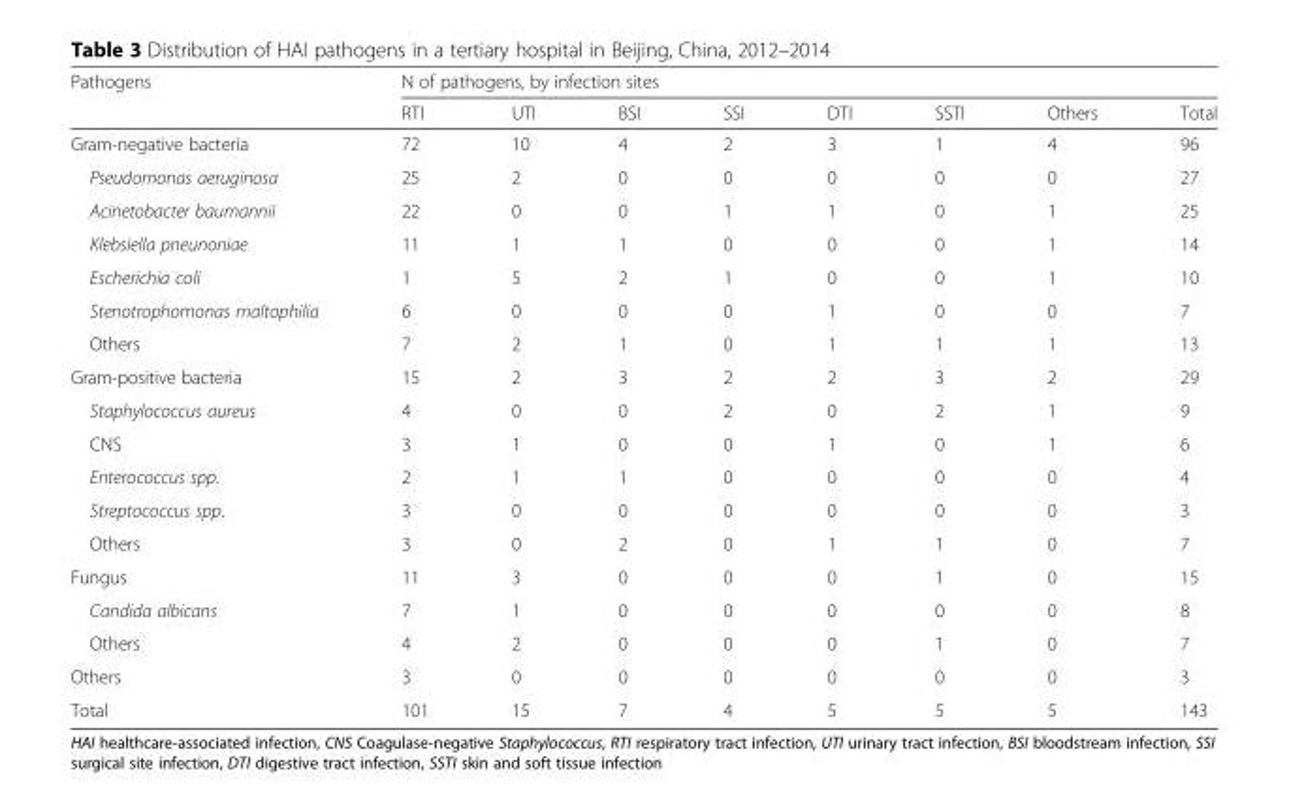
<table><thead><tr><td rowspan="2">Pathogens</td><td colspan="8">N of pathogens, by infection sites</td></tr><tr><td>RTI</td><td>UTI</td><td>BSI</td><td>SSI</td><td>DTI</td><td>SSTI</td><td>Others</td><td>Total</td></tr></thead><tbody><tr><td>Gram-negative bacteria</td><td>72</td><td>10</td><td>4</td><td>2</td><td>3</td><td>1</td><td>4</td><td>96</td></tr><tr><td>Pseudomonas aeruginosa</td><td>25</td><td>2</td><td>0</td><td>0</td><td>0</td><td>0</td><td>0</td><td>27</td></tr><tr><td>Acinetobacter baumannii</td><td>22</td><td>0</td><td>0</td><td>1</td><td>1</td><td>0</td><td>1</td><td>25</td></tr><tr><td>Klebsiella pneunoniae</td><td>11</td><td>1</td><td>1</td><td>0</td><td>0</td><td>0</td><td>1</td><td>14</td></tr><tr><td>Escherichia coli</td><td>1</td><td>5</td><td>2</td><td>1</td><td>0</td><td>0</td><td>1</td><td>10</td></tr><tr><td>Stenotrophomonas maltophilia</td><td>6</td><td>0</td><td>0</td><td>0</td><td>1</td><td>0</td><td>0</td><td>7</td></tr><tr><td>Others</td><td>7</td><td>2</td><td>1</td><td>0</td><td>1</td><td>1</td><td>1</td><td>13</td></tr><tr><td>Gram-positive bacteria</td><td>15</td><td>2</td><td>3</td><td>2</td><td>2</td><td>3</td><td>2</td><td>29</td></tr><tr><td>Staphylococcus aureus</td><td>4</td><td>0</td><td>0</td><td>2</td><td>0</td><td>2</td><td>1</td><td>9</td></tr><tr><td>CNS</td><td>3</td><td>1</td><td>0</td><td>0</td><td>1</td><td>0</td><td>1</td><td>6</td></tr><tr><td>Enterococcus spp.</td><td>2</td><td>1</td><td>1</td><td>0</td><td>0</td><td>0</td><td>0</td><td>4</td></tr><tr><td>Streptococcus spp.</td><td>3</td><td>0</td><td>0</td><td>0</td><td>0</td><td>0</td><td>0</td><td>3</td></tr><tr><td>Others</td><td>3</td><td>0</td><td>2</td><td>0</td><td>1</td><td>1</td><td>0</td><td>7</td></tr><tr><td>Fungus</td><td>11</td><td>3</td><td>0</td><td>0</td><td>0</td><td>1</td><td>0</td><td>15</td></tr><tr><td>Candida albicans</td><td>7</td><td>1</td><td>0</td><td>0</td><td>0</td><td>0</td><td>0</td><td>8</td></tr><tr><td>Others</td><td>4</td><td>2</td><td>0</td><td>0</td><td>0</td><td>1</td><td>0</td><td>7</td></tr><tr><td>Others</td><td>3</td><td>0</td><td>0</td><td>0</td><td>0</td><td>0</td><td>0</td><td>3</td></tr><tr><td>Total</td><td>101</td><td>15</td><td>7</td><td>4</td><td>5</td><td>5</td><td>5</td><td>143</td></tr></tbody></table>